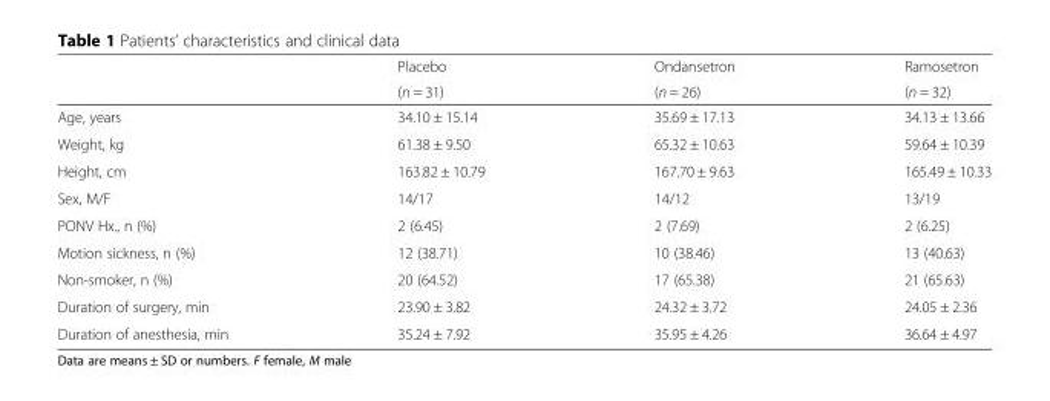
<table><thead><tr><td rowspan="2"></td><td rowspan="2">Placebo (n = 31)</td><td rowspan="2">Ondansetron (n = 26)</td><td rowspan="2">Ramosetron (n = 32)</td></tr><tr></tr></thead><tbody><tr><td>Age, years</td><td>34.10 ± 15.14</td><td>35.69 ± 17.13</td><td>34.13 ± 13.66</td></tr><tr><td>Weight, kg</td><td>61.38 ± 9.50</td><td>65.32 ± 10.63</td><td>59.64 ± 10.39</td></tr><tr><td>Height, cm</td><td>163.82 ± 10.79</td><td>167.70 ± 9.63</td><td>165.49 ± 10.33</td></tr><tr><td>Sex, M/F</td><td>14/17</td><td>14/12</td><td>13/19</td></tr><tr><td>PONV Hx., n (%)</td><td>2 (6.45)</td><td>2 (7.69)</td><td>2 (6.25)</td></tr><tr><td>Motion sickness, n (%)</td><td>12 (38.71)</td><td>10 (38.46)</td><td>13 (40.63)</td></tr><tr><td>Non-smoker, n (%)</td><td>20 (64.52)</td><td>17 (65.38)</td><td>21 (65.63)</td></tr><tr><td>Duration of surgery, min</td><td>23.90 ± 3.82</td><td>24.32 ± 3.72</td><td>24.05 ± 2.36</td></tr><tr><td>Duration of anesthesia, min</td><td>35.24 ± 7.92</td><td>35.95 ± 4.26</td><td>36.64 ± 4.97</td></tr></tbody></table>